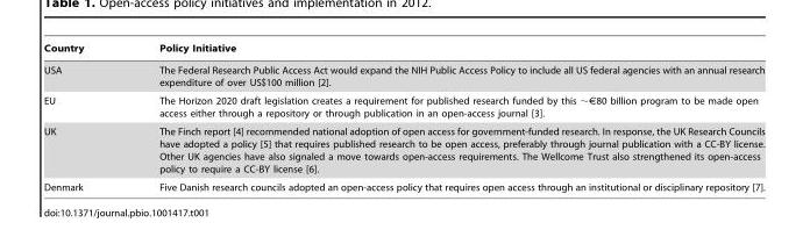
<table><thead><tr><td>Country</td><td>Policy Initiative</td></tr></thead><tbody><tr><td>USA</td><td>The Federal Research Public Access Act would expand the NIH Public Access Policy to include all US federal agencies with an annual research expenditure of over US$100 million [2].</td></tr><tr><td>EU</td><td>The Horizon 2020 draft legislation creates a requirement for published research funded by this ∼€80 billion program to be made open access either through a repository or through publication in an open-access journal [3].</td></tr><tr><td>UK</td><td>The Finch report [4] recommended national adoption of open access for government-funded research. In response, the UK Research Councils have adopted a policy [5] that requires published research to be open access, preferably through journal publication with a CC-BY license. Other UK agencies have also signaled a move towards open-access requirements. The Wellcome Trust also strengthened its open-access policy to require a CC-BY license [6].</td></tr><tr><td>Denmark</td><td>Five Danish research councils adopted an open-access policy that requires open access through an institutional or disciplinary repository [7].</td></tr></tbody></table>